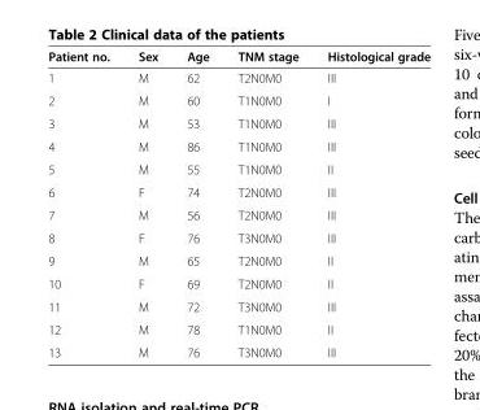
<table><thead><tr><td>Patient no.</td><td>Sex</td><td>Age</td><td>TNM stage</td><td>Histological grade</td></tr></thead><tbody><tr><td>1</td><td>M</td><td>62</td><td>T2N0M0</td><td>III</td></tr><tr><td>2</td><td>M</td><td>60</td><td>T1N0M0</td><td>I</td></tr><tr><td>3</td><td>M</td><td>53</td><td>T1N0M0</td><td>III</td></tr><tr><td>4</td><td>M</td><td>86</td><td>T1N0M0</td><td>III</td></tr><tr><td>5</td><td>M</td><td>55</td><td>T1N0M0</td><td>II</td></tr><tr><td>6</td><td>F</td><td>74</td><td>T2N0M0</td><td>III</td></tr><tr><td>7</td><td>M</td><td>56</td><td>T2N0M0</td><td>III</td></tr><tr><td>8</td><td>F</td><td>76</td><td>T3N0M0</td><td>III</td></tr><tr><td>9</td><td>M</td><td>65</td><td>T2N0M0</td><td>II</td></tr><tr><td>10</td><td>F</td><td>69</td><td>T2N0M0</td><td>II</td></tr><tr><td>11</td><td>M</td><td>72</td><td>T3N0M0</td><td>III</td></tr><tr><td>12</td><td>M</td><td>78</td><td>T1N0M0</td><td>II</td></tr><tr><td>13</td><td>M</td><td>76</td><td>T3N0M0</td><td>III</td></tr></tbody></table>